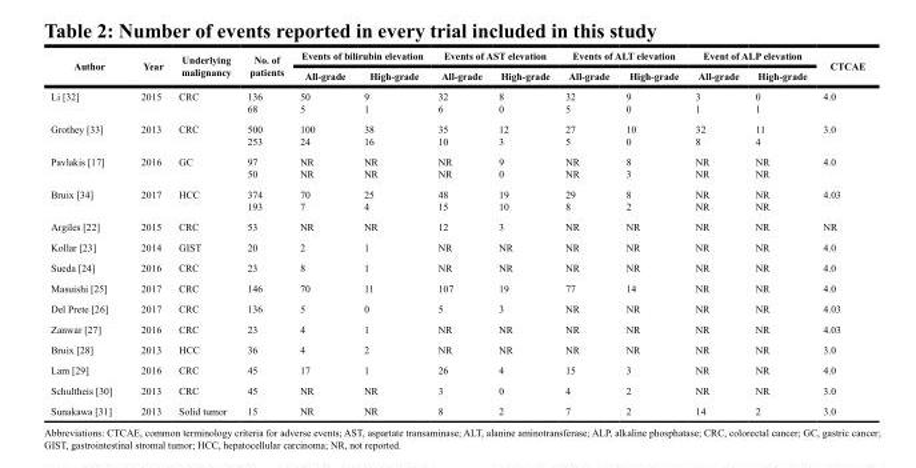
<table><thead><tr><td rowspan="2">Author</td><td rowspan="2">Year</td><td rowspan="2">Underlying malignancy</td><td rowspan="2">No. of patients</td><td colspan="2">Events of bilirubin elevation</td><td colspan="2">Events of AST elevation</td><td colspan="2">Events of ALT elevation</td><td colspan="2">Event of ALP elevation</td><td rowspan="2">CTCAE</td></tr><tr><td>All-grade</td><td>High-grade</td><td>All-grade</td><td>High-grade</td><td>All-grade</td><td>High-grade</td><td>All-grade</td><td>High-grade</td></tr></thead><tbody><tr><td>Li [32]</td><td>2015</td><td>CRC</td><td>136 68</td><td>50 5</td><td>9 1</td><td>32 6</td><td>8 0</td><td>32 5</td><td>9 0</td><td>3 1</td><td>0 1</td><td>4.0</td></tr><tr><td>Grothey [33]</td><td>2013</td><td>CRC</td><td>500 253</td><td>100 24</td><td>38 16</td><td>35 10</td><td>12 3</td><td>27 5</td><td>10 0</td><td>32 8</td><td>11 4</td><td>3.0</td></tr><tr><td>Pavlakis [17]</td><td>2016</td><td>GC</td><td>97 50</td><td>NR NR</td><td>NR NR</td><td>NR NR</td><td>9 0</td><td>NR NR</td><td>8 3</td><td>NR NR</td><td>NR NR</td><td>4.0</td></tr><tr><td>Bruix [34]</td><td>2017</td><td>HCC</td><td>374 193</td><td>70 7</td><td>25 4</td><td>48 15</td><td>19 10</td><td>29 8</td><td>8 2</td><td>NR NR</td><td>NR NR</td><td>4.03</td></tr><tr><td>Argiles [22]</td><td>2015</td><td>CRC</td><td>53</td><td>NR</td><td>NR</td><td>12</td><td>3</td><td>NR</td><td>NR</td><td>NR</td><td>NR</td><td>NR</td></tr><tr><td>Kollar [23]</td><td>2014</td><td>GIST</td><td>20</td><td>2</td><td>1</td><td>NR</td><td>NR</td><td>NR</td><td>NR</td><td>NR</td><td>NR</td><td>4.0</td></tr><tr><td>Sueda [24]</td><td>2016</td><td>CRC</td><td>23</td><td>8</td><td>1</td><td>NR</td><td>NR</td><td>NR</td><td>NR</td><td>NR</td><td>NR</td><td>4.0</td></tr><tr><td>Masuishi [25]</td><td>2017</td><td>CRC</td><td>146</td><td>70</td><td>11</td><td>107</td><td>19</td><td>77</td><td>14</td><td>NR</td><td>NR</td><td>4.0</td></tr><tr><td>Del Prete [26]</td><td>2017</td><td>CRC</td><td>136</td><td>5</td><td>0</td><td>5</td><td>3</td><td>NR</td><td>NR</td><td>NR</td><td>NR</td><td>4.03</td></tr><tr><td>Zanwar [27]</td><td>2016</td><td>CRC</td><td>23</td><td>4</td><td>1</td><td>NR</td><td>NR</td><td>NR</td><td>NR</td><td>NR</td><td>NR</td><td>4.03</td></tr><tr><td>Bruix [28]</td><td>2013</td><td>HCC</td><td>36</td><td>4</td><td>2</td><td>NR</td><td>NR</td><td>NR</td><td>NR</td><td>NR</td><td>NR</td><td>3.0</td></tr><tr><td>Lam [29]</td><td>2016</td><td>CRC</td><td>45</td><td>17</td><td>1</td><td>26</td><td>4</td><td>15</td><td>3</td><td>NR</td><td>NR</td><td>4.0</td></tr><tr><td>Schultheis [30]</td><td>2013</td><td>CRC</td><td>45</td><td>NR</td><td>NR</td><td>3</td><td>0</td><td>4</td><td>2</td><td>NR</td><td>NR</td><td>3.0</td></tr><tr><td>Sunakawa [31]</td><td>2013</td><td>Solid tumor</td><td>15</td><td>NR</td><td>NR</td><td>8</td><td>2</td><td>7</td><td>2</td><td>14</td><td>2</td><td>3.0</td></tr></tbody></table>